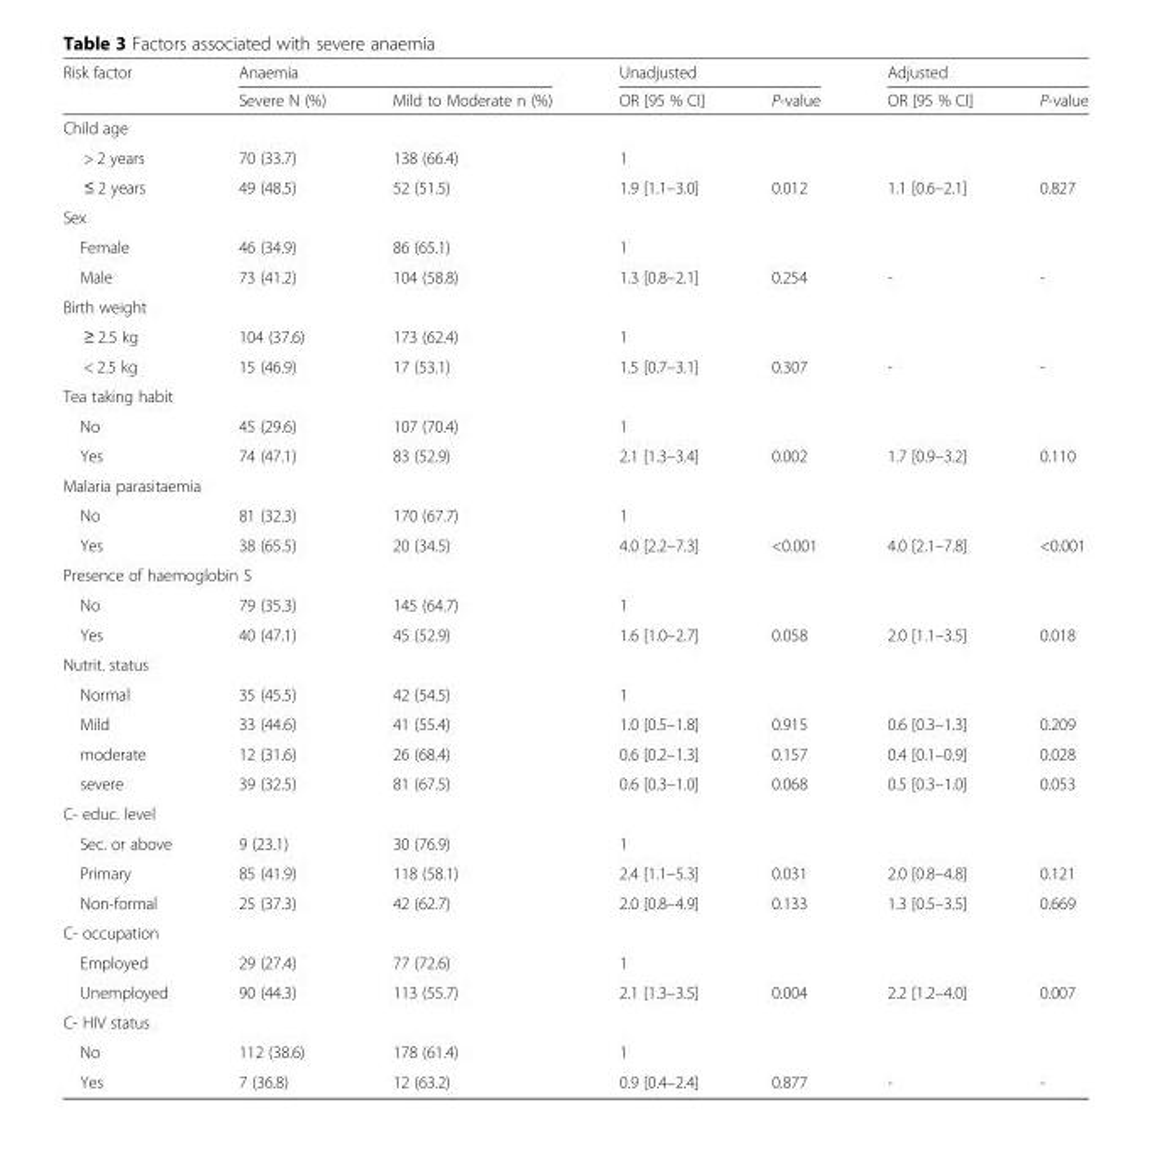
<table><thead><tr><td rowspan="2">Risk factor</td><td colspan="2">Anaemia</td><td colspan="2">Unadjusted</td><td colspan="2">Adjusted</td></tr><tr><td>Severe N (%)</td><td>Mild to Moderate n (%)</td><td>OR [95 % CI]</td><td>P-value</td><td>OR [95 % CI]</td><td>P-value</td></tr></thead><tbody><tr><td colspan="7">Child age</td></tr><tr><td>&gt; 2 years</td><td>70 (33.7)</td><td>138 (66.4)</td><td>1</td><td></td><td></td><td></td></tr><tr><td>≤ 2 years</td><td>49 (48.5)</td><td>52 (51.5)</td><td>1.9 [1.1–3.0]</td><td>0.012</td><td>1.1 [0.6–2.1]</td><td>0.827</td></tr><tr><td colspan="7">Sex</td></tr><tr><td>Female</td><td>46 (34.9)</td><td>86 (65.1)</td><td>1</td><td></td><td></td><td></td></tr><tr><td>Male</td><td>73 (41.2)</td><td>104 (58.8)</td><td>1.3 [0.8–2.1]</td><td>0.254</td><td>-</td><td>-</td></tr><tr><td colspan="7">Birth weight</td></tr><tr><td>≥ 2.5 kg</td><td>104 (37.6)</td><td>173 (62.4)</td><td>1</td><td></td><td></td><td></td></tr><tr><td>&lt; 2.5 kg</td><td>15 (46.9)</td><td>17 (53.1)</td><td>1.5 [0.7–3.1]</td><td>0.307</td><td>-</td><td>-</td></tr><tr><td colspan="7">Tea taking habit</td></tr><tr><td>No</td><td>45 (29.6)</td><td>107 (70.4)</td><td>1</td><td></td><td></td><td></td></tr><tr><td>Yes</td><td>74 (47.1)</td><td>83 (52.9)</td><td>2.1 [1.3–3.4]</td><td>0.002</td><td>1.7 [0.9–3.2]</td><td>0.110</td></tr><tr><td colspan="7">Malaria parasitaemia</td></tr><tr><td>No</td><td>81 (32.3)</td><td>170 (67.7)</td><td>1</td><td></td><td></td><td></td></tr><tr><td>Yes</td><td>38 (65.5)</td><td>20 (34.5)</td><td>4.0 [2.2–7.3]</td><td>&lt;0.001</td><td>4.0 [2.1–7.8]</td><td>&lt;0.001</td></tr><tr><td colspan="7">Presence of haemoglobin S</td></tr><tr><td>No</td><td>79 (35.3)</td><td>145 (64.7)</td><td>1</td><td></td><td></td><td></td></tr><tr><td>Yes</td><td>40 (47.1)</td><td>45 (52.9)</td><td>1.6 [1.0–2.7]</td><td>0.058</td><td>2.0 [1.1–3.5]</td><td>0.018</td></tr><tr><td colspan="7">Nutrit. status</td></tr><tr><td>Normal</td><td>35 (45.5)</td><td>42 (54.5)</td><td>1</td><td></td><td></td><td></td></tr><tr><td>Mild</td><td>33 (44.6)</td><td>41 (55.4)</td><td>1.0 [0.5–1.8]</td><td>0.915</td><td>0.6 [0.3–1.3]</td><td>0.209</td></tr><tr><td>moderate</td><td>12 (31.6)</td><td>26 (68.4)</td><td>0.6 [0.2–1.3]</td><td>0.157</td><td>0.4 [0.1–0.9]</td><td>0.028</td></tr><tr><td>severe</td><td>39 (32.5)</td><td>81 (67.5)</td><td>0.6 [0.3–1.0]</td><td>0.068</td><td>0.5 [0.3–1.0]</td><td>0.053</td></tr><tr><td colspan="7">C- educ. level</td></tr><tr><td>Sec. or above</td><td>9 (23.1)</td><td>30 (76.9)</td><td>1</td><td></td><td></td><td></td></tr><tr><td>Primary</td><td>85 (41.9)</td><td>118 (58.1)</td><td>2.4 [1.1–5.3]</td><td>0.031</td><td>2.0 [0.8–4.8]</td><td>0.121</td></tr><tr><td>Non-formal</td><td>25 (37.3)</td><td>42 (62.7)</td><td>2.0 [0.8–4.9]</td><td>0.133</td><td>1.3 [0.5–3.5]</td><td>0.669</td></tr><tr><td colspan="7">C- occupation</td></tr><tr><td>Employed</td><td>29 (27.4)</td><td>77 (72.6)</td><td>1</td><td></td><td></td><td></td></tr><tr><td>Unemployed</td><td>90 (44.3)</td><td>113 (55.7)</td><td>2.1 [1.3–3.5]</td><td>0.004</td><td>2.2 [1.2–4.0]</td><td>0.007</td></tr><tr><td colspan="7">C- HIV status</td></tr><tr><td>No</td><td>112 (38.6)</td><td>178 (61.4)</td><td>1</td><td></td><td></td><td></td></tr><tr><td>Yes</td><td>7 (36.8)</td><td>12 (63.2)</td><td>0.9 [0.4–2.4]</td><td>0.877</td><td>-</td><td>-</td></tr></tbody></table>